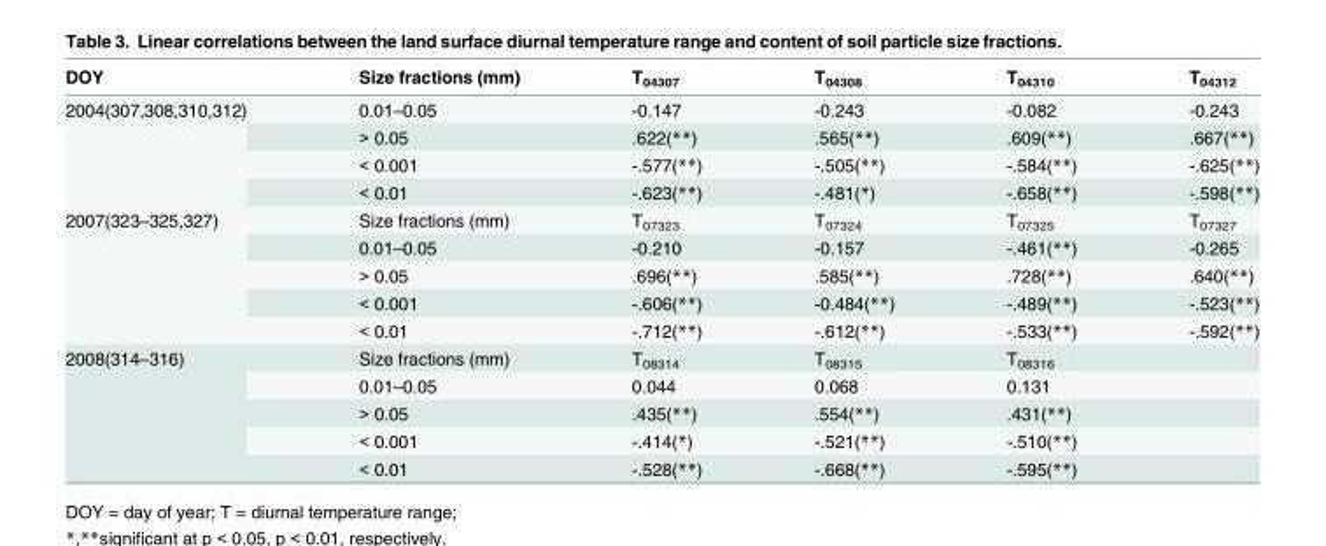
<table><thead><tr><td>DOY</td><td>Size fractions (mm)</td><td>T<sub>04307</sub></td><td>T<sub>04308</sub></td><td>T<sub>04310</sub></td><td>T<sub>04312</sub></td></tr></thead><tbody><tr><td rowspan="4">2004(307,308,310,312)</td><td>0.01–0.05</td><td>-0.147</td><td>-0.243</td><td>-0.082</td><td>-0.243</td></tr><tr><td>&gt; 0.05</td><td>.622(**)</td><td>.565(**)</td><td>.609(**)</td><td>.667(**)</td></tr><tr><td>&lt; 0.001</td><td>-.577(**)</td><td>-.505(**)</td><td>-.584(**)</td><td>-.625(**)</td></tr><tr><td>&lt; 0.01</td><td>-.623(**)</td><td>-.481(*)</td><td>-.658(**)</td><td>-.598(**)</td></tr><tr><td rowspan="5">2007(323–325,327)</td><td>Size fractions (mm)</td><td>T<sub>07323</sub></td><td>T<sub>07324</sub></td><td>T<sub>07325</sub></td><td>T<sub>07327</sub></td></tr><tr><td>0.01–0.05</td><td>-0.210</td><td>-0.157</td><td>-.461(**)</td><td>-0.265</td></tr><tr><td>&gt; 0.05</td><td>.696(**)</td><td>.585(**)</td><td>.728(**)</td><td>.640(**)</td></tr><tr><td>&lt; 0.001</td><td>-.606(**)</td><td>-0.484(**)</td><td>-.489(**)</td><td>-.523(**)</td></tr><tr><td>&lt; 0.01</td><td>-.712(**)</td><td>-.612(**)</td><td>-.533(**)</td><td>-.592(**)</td></tr><tr><td rowspan="5">2008(314–316)</td><td>Size fractions (mm)</td><td>T<sub>08314</sub></td><td>T<sub>08315</sub></td><td>T<sub>08316</sub></td><td></td></tr><tr><td>0.01–0.05</td><td>0.044</td><td>0.068</td><td>0.131</td><td></td></tr><tr><td>&gt; 0.05</td><td>.435(**)</td><td>.554(**)</td><td>.431(**)</td><td></td></tr><tr><td>&lt; 0.001</td><td>-.414(*)</td><td>-.521(**)</td><td>-.510(**)</td><td></td></tr><tr><td>&lt; 0.01</td><td>-.528(**)</td><td>-.668(**)</td><td>-.595(**)</td><td></td></tr></tbody></table>